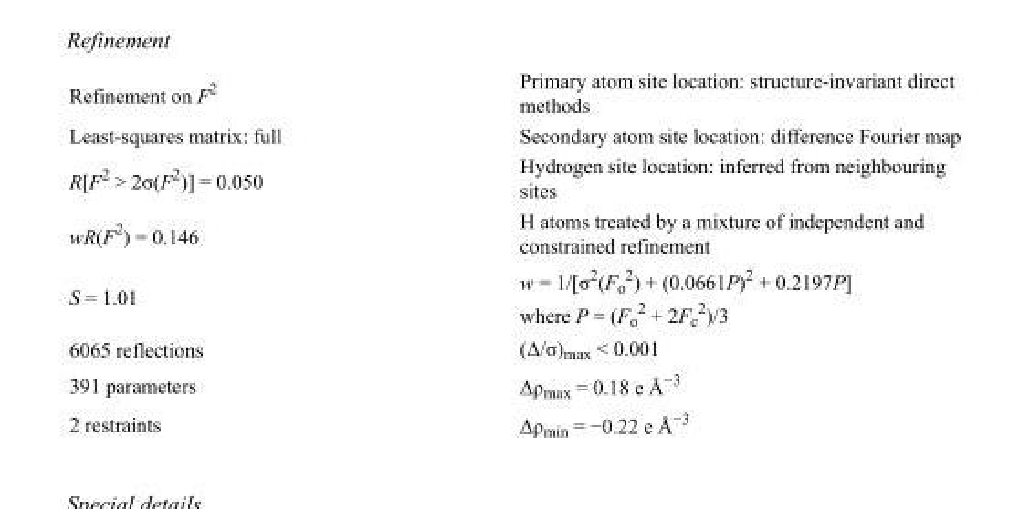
<table><tbody><tr><td>Refinement on F<sup>2</sup></td><td>Primary atom site location: structure-invariant direct methods</td></tr><tr><td>Least-squares matrix: full</td><td>Secondary atom site location: difference Fourier map</td></tr><tr><td>R[F<sup>2</sup> &gt; 2σ(F<sup>2</sup>)] = 0.050</td><td>Hydrogen site location: inferred from neighbouring sites</td></tr><tr><td>wR(F<sup>2</sup>) = 0.146</td><td>H atoms treated by a mixture of independent and constrained refinement</td></tr><tr><td>S = 1.01</td><td>w = 1/[σ<sup>2</sup>(F<sub>o</sub> <sup>2</sup>) + (0.0661P)<sup>2</sup> + 0.2197P] where P = (F<sub>o</sub> <sup>2</sup> + 2F<sub>c</sub> <sup>2</sup>)/3</td></tr><tr><td>6065 reflections</td><td>(Δ/σ)<sub>max</sub> &lt; 0.001</td></tr><tr><td>391 parameters</td><td>Δρ<sub>max</sub> = 0.18 e Å<sup>−3</sup></td></tr><tr><td>2 restraints</td><td>Δρ<sub>min</sub> = −0.22 e Å<sup>−3</sup></td></tr></tbody></table>